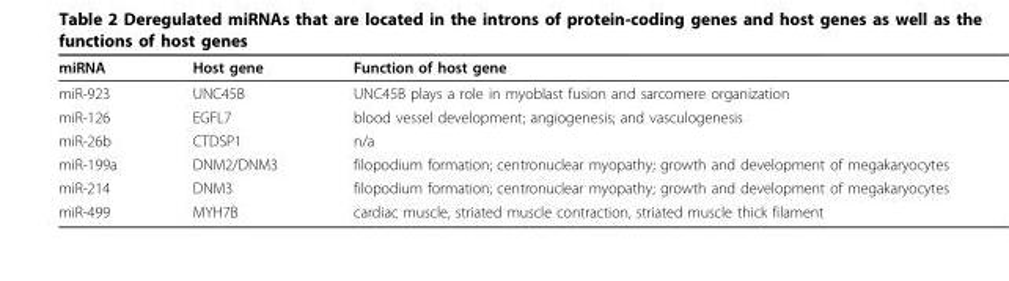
<table><thead><tr><td>miRNA</td><td>Host gene</td><td>Function of host gene</td></tr></thead><tbody><tr><td>miR-923</td><td>UNC45B</td><td>UNC45B plays a role in myoblast fusion and sarcomere organization</td></tr><tr><td>miR-126</td><td>EGFL7</td><td>blood vessel development; angiogenesis; and vasculogenesis</td></tr><tr><td>miR-26b</td><td>CTDSP1</td><td>n/a</td></tr><tr><td>miR-199a</td><td>DNM2/DNM3</td><td>filopodium formation; centronuclear myopathy; growth and development of megakaryocytes</td></tr><tr><td>miR-214</td><td>DNM3</td><td>filopodium formation; centronuclear myopathy; growth and development of megakaryocytes</td></tr><tr><td>miR-499</td><td>MYH7B</td><td>cardiac muscle, striated muscle contraction, striated muscle thick filament</td></tr></tbody></table>